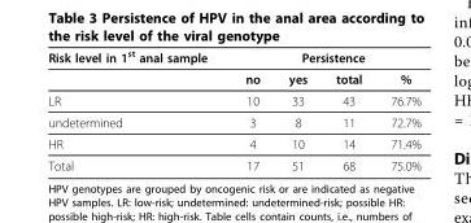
<table><thead><tr><td rowspan="2">Risk level in 1<sup>st</sup> anal sample</td><td colspan="4">Persistence</td></tr><tr><td>no</td><td>yes</td><td>total</td><td>%</td></tr></thead><tbody><tr><td>LR</td><td>10</td><td>33</td><td>43</td><td>76.7%</td></tr><tr><td>undetermined</td><td>3</td><td>8</td><td>11</td><td>72.7%</td></tr><tr><td>HR</td><td>4</td><td>10</td><td>14</td><td>71.4%</td></tr><tr><td>Total</td><td>17</td><td>51</td><td>68</td><td>75.0%</td></tr></tbody></table>